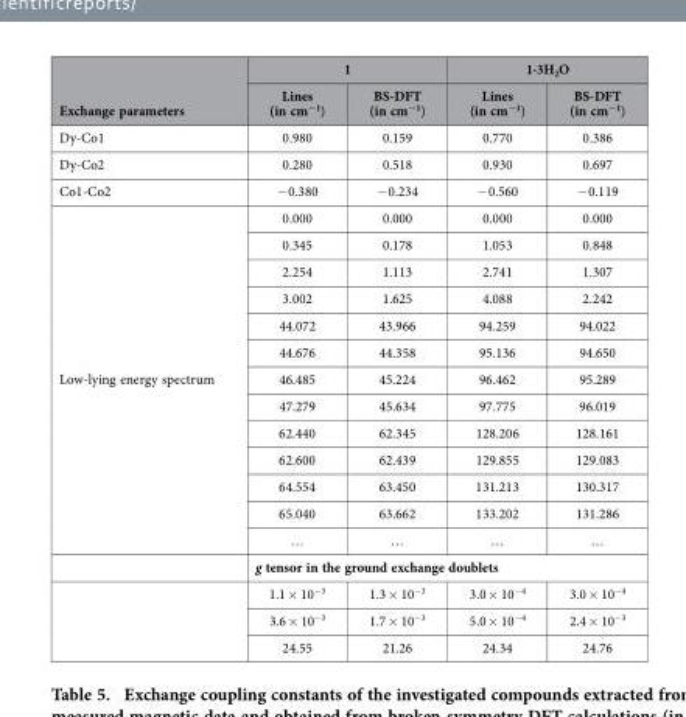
<table><thead><tr><td rowspan="2">Exchange parameters</td><td colspan="2">1</td><td colspan="2">1∙3H<sub>2</sub>O</td></tr><tr><td>Lines (in cm<sup>−1</sup>)</td><td>BS-DFT (in cm<sup>−1</sup>)</td><td>Lines (in cm<sup>−1</sup>)</td><td>BS-DFT (in cm<sup>−1</sup>)</td></tr></thead><tbody><tr><td>Dy-Co1</td><td>0.980</td><td>0.159</td><td>0.770</td><td>0.386</td></tr><tr><td>Dy-Co2</td><td>0.280</td><td>0.518</td><td>0.930</td><td>0.697</td></tr><tr><td>Co1-Co2</td><td>− 0.380</td><td>− 0.234</td><td>− 0.560</td><td>− 0.119</td></tr><tr><td rowspan="17">Low-lying energy spectrum</td><td>0.000</td><td>0.000</td><td>0.000</td><td>0.000</td></tr><tr><td>0.345</td><td>0.178</td><td>1.053</td><td>0.848</td></tr><tr><td>2.254</td><td>1.113</td><td>2.741</td><td>1.307</td></tr><tr><td>3.002</td><td>1.625</td><td>4.088</td><td>2.242</td></tr><tr><td>44.072</td><td>43.966</td><td>94.259</td><td>94.022</td></tr><tr><td>44.676</td><td>44.358</td><td>95.136</td><td>94.650</td></tr><tr><td>46.485</td><td>45.224</td><td>96.462</td><td>95.289</td></tr><tr><td>47.279</td><td>45.634</td><td>97.775</td><td>96.019</td></tr><tr><td>62.440</td><td>62.345</td><td>128.206</td><td>128.161</td></tr><tr><td>62.600</td><td>62.439</td><td>129.855</td><td>129.083</td></tr><tr><td>64.554</td><td>63.450</td><td>131.213</td><td>130.317</td></tr><tr><td>65.040</td><td>63.662</td><td>133.202</td><td>131.286</td></tr><tr><td>…</td><td>…</td><td>…</td><td>…</td></tr><tr><td colspan="4">g tensor in the ground exchange doublets</td></tr><tr><td>1.1 × 10<sup>−3</sup></td><td>1.3 × 10<sup>−3</sup></td><td>3.0 × 10<sup>−4</sup></td><td>3.0 × 10<sup>−4</sup></td></tr><tr><td>3.6 × 10<sup>−3</sup></td><td>1.7 × 10<sup>−3</sup></td><td>5.0 × 10<sup>−4</sup></td><td>2.4 × 10<sup>−3</sup></td></tr><tr><td>24.55</td><td>21.26</td><td>24.34</td><td>24.76</td></tr></tbody></table>